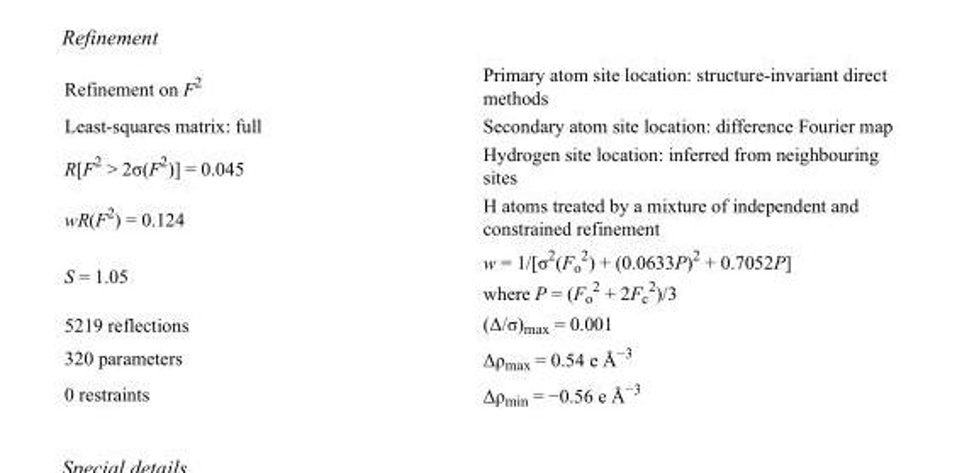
<table><tbody><tr><td>Refinement on F<sup>2</sup></td><td>Primary atom site location: structure-invariant direct methods</td></tr><tr><td>Least-squares matrix: full</td><td>Secondary atom site location: difference Fourier map</td></tr><tr><td>R[F<sup>2</sup> &gt; 2σ(F<sup>2</sup>)] = 0.045</td><td>Hydrogen site location: inferred from neighbouring sites</td></tr><tr><td>wR(F<sup>2</sup>) = 0.124</td><td>H atoms treated by a mixture of independent and constrained refinement</td></tr><tr><td>S = 1.05</td><td>w = 1/[σ<sup>2</sup>(F<sub>o</sub> <sup>2</sup>) + (0.0633P)<sup>2</sup> + 0.7052P] where P = (F<sub>o</sub> <sup>2</sup> + 2F<sub>c</sub> <sup>2</sup>)/3</td></tr><tr><td>5219 reflections</td><td>(Δ/σ)<sub>max</sub> = 0.001</td></tr><tr><td>320 parameters</td><td>Δρ<sub>max</sub> = 0.54 e Å<sup>−3</sup></td></tr><tr><td>0 restraints</td><td>Δρ<sub>min</sub> = −0.56 e Å<sup>−3</sup></td></tr></tbody></table>